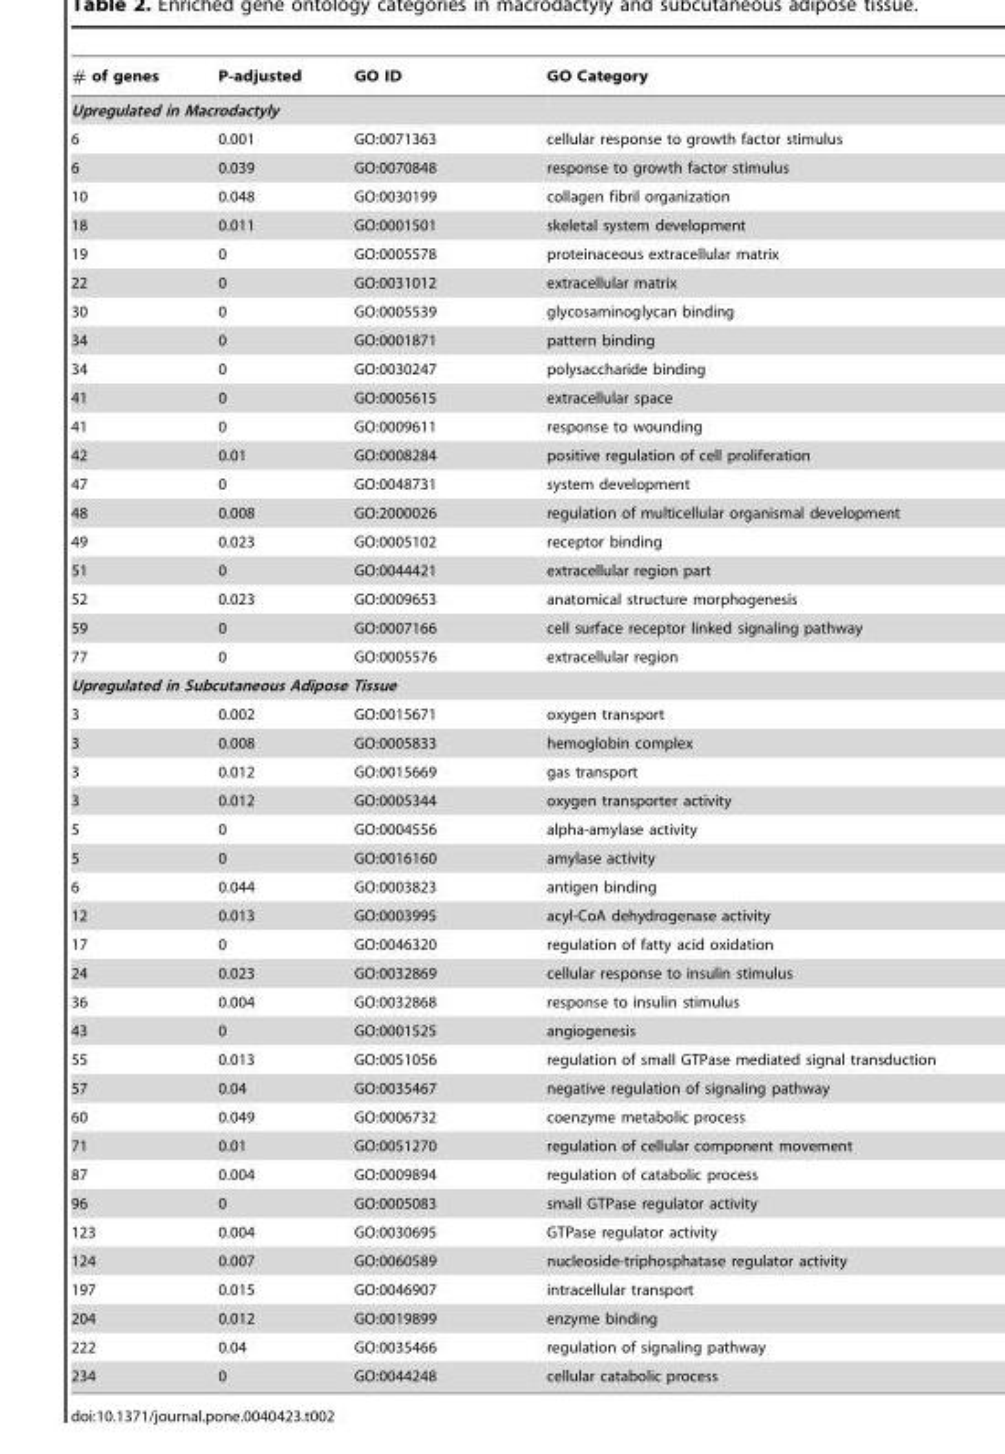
<table><thead><tr><td># of genes</td><td>P-adjusted</td><td>GO ID</td><td>GO Category</td></tr></thead><tbody><tr><td colspan="4">Upregulated in Macrodactyly</td></tr><tr><td>6</td><td>0.001</td><td>GO:0071363</td><td>cellular response to growth factor stimulus</td></tr><tr><td>6</td><td>0.039</td><td>GO:0070848</td><td>response to growth factor stimulus</td></tr><tr><td>10</td><td>0.048</td><td>GO:0030199</td><td>collagen fibril organization</td></tr><tr><td>18</td><td>0.011</td><td>GO:0001501</td><td>skeletal system development</td></tr><tr><td>19</td><td>0</td><td>GO:0005578</td><td>proteinaceous extracellular matrix</td></tr><tr><td>22</td><td>0</td><td>GO:0031012</td><td>extracellular matrix</td></tr><tr><td>30</td><td>0</td><td>GO:0005539</td><td>glycosaminoglycan binding</td></tr><tr><td>34</td><td>0</td><td>GO:0001871</td><td>pattern binding</td></tr><tr><td>34</td><td>0</td><td>GO:0030247</td><td>polysaccharide binding</td></tr><tr><td>41</td><td>0</td><td>GO:0005615</td><td>extracellular space</td></tr><tr><td>41</td><td>0</td><td>GO:0009611</td><td>response to wounding</td></tr><tr><td>42</td><td>0.01</td><td>GO:0008284</td><td>positive regulation of cell proliferation</td></tr><tr><td>47</td><td>0</td><td>GO:0048731</td><td>system development</td></tr><tr><td>48</td><td>0.008</td><td>GO:2000026</td><td>regulation of multicellular organismal development</td></tr><tr><td>49</td><td>0.023</td><td>GO:0005102</td><td>receptor binding</td></tr><tr><td>51</td><td>0</td><td>GO:0044421</td><td>extracellular region part</td></tr><tr><td>52</td><td>0.023</td><td>GO:0009653</td><td>anatomical structure morphogenesis</td></tr><tr><td>59</td><td>0</td><td>GO:0007166</td><td>cell surface receptor linked signaling pathway</td></tr><tr><td>77</td><td>0</td><td>GO:0005576</td><td>extracellular region</td></tr><tr><td colspan="4">Upregulated in Subcutaneous Adipose Tissue</td></tr><tr><td>3</td><td>0.002</td><td>GO:0015671</td><td>oxygen transport</td></tr><tr><td>3</td><td>0.008</td><td>GO:0005833</td><td>hemoglobin complex</td></tr><tr><td>3</td><td>0.012</td><td>GO:0015669</td><td>gas transport</td></tr><tr><td>3</td><td>0.012</td><td>GO:0005344</td><td>oxygen transporter activity</td></tr><tr><td>5</td><td>0</td><td>GO:0004556</td><td>alpha-amylase activity</td></tr><tr><td>5</td><td>0</td><td>GO:0016160</td><td>amylase activity</td></tr><tr><td>6</td><td>0.044</td><td>GO:0003823</td><td>antigen binding</td></tr><tr><td>12</td><td>0.013</td><td>GO:0003995</td><td>acyl-CoA dehydrogenase activity</td></tr><tr><td>17</td><td>0</td><td>GO:0046320</td><td>regulation of fatty acid oxidation</td></tr><tr><td>24</td><td>0.023</td><td>GO:0032869</td><td>cellular response to insulin stimulus</td></tr><tr><td>36</td><td>0.004</td><td>GO:0032868</td><td>response to insulin stimulus</td></tr><tr><td>43</td><td>0</td><td>GO:0001525</td><td>angiogenesis</td></tr><tr><td>55</td><td>0.013</td><td>GO:0051056</td><td>regulation of small GTPase mediated signal transduction</td></tr><tr><td>57</td><td>0.04</td><td>GO:0035467</td><td>negative regulation of signaling pathway</td></tr><tr><td>60</td><td>0.049</td><td>GO:0006732</td><td>coenzyme metabolic process</td></tr><tr><td>71</td><td>0.01</td><td>GO:0051270</td><td>regulation of cellular component movement</td></tr><tr><td>87</td><td>0.004</td><td>GO:0009894</td><td>regulation of catabolic process</td></tr><tr><td>96</td><td>0</td><td>GO:0005083</td><td>small GTPase regulator activity</td></tr><tr><td>123</td><td>0.004</td><td>GO:0030695</td><td>GTPase regulator activity</td></tr><tr><td>124</td><td>0.007</td><td>GO:0060589</td><td>nucleoside-triphosphatase regulator activity</td></tr><tr><td>197</td><td>0.015</td><td>GO:0046907</td><td>intracellular transport</td></tr><tr><td>204</td><td>0.012</td><td>GO:0019899</td><td>enzyme binding</td></tr><tr><td>222</td><td>0.04</td><td>GO:0035466</td><td>regulation of signaling pathway</td></tr><tr><td>234</td><td>0</td><td>GO:0044248</td><td>cellular catabolic process</td></tr></tbody></table>